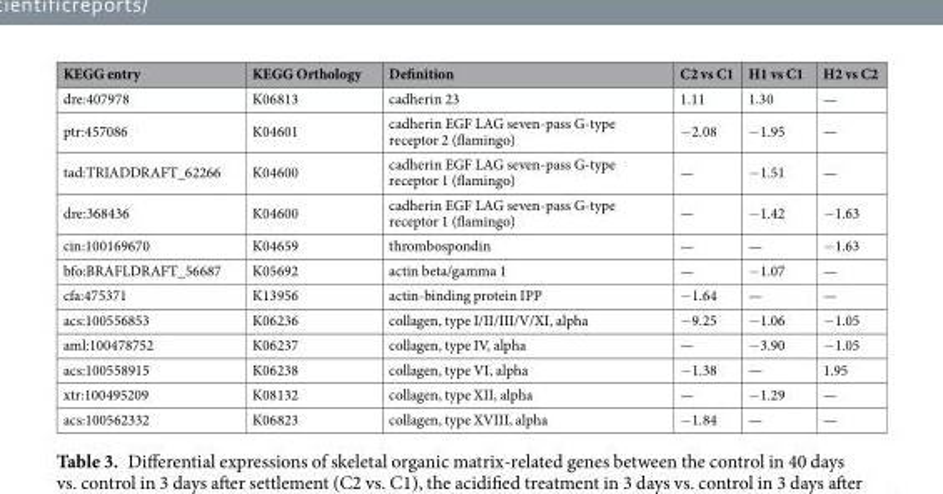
<table><thead><tr><td>KEGG entry</td><td>KEGG Orthology</td><td>Definition</td><td>C2 vs C1</td><td>H1 vs C1</td><td>H2 vs C2</td></tr></thead><tbody><tr><td>dre:407978</td><td>K06813</td><td>cadherin 23</td><td>1.11</td><td>1.30</td><td>—</td></tr><tr><td>ptr:457086</td><td>K04601</td><td>cadherin EGF LAG seven-pass G-type receptor 2 (flamingo)</td><td>−2.08</td><td>−1.95</td><td>—</td></tr><tr><td>tad:TRIADDRAFT_62266</td><td>K04600</td><td>cadherin EGF LAG seven-pass G-type receptor 1 (flamingo)</td><td>—</td><td>−1.51</td><td>—</td></tr><tr><td>dre:368436</td><td>K04600</td><td>cadherin EGF LAG seven-pass G-type receptor 1 (flamingo)</td><td>—</td><td>−1.42</td><td>−1.63</td></tr><tr><td>cin:100169670</td><td>K04659</td><td>thrombospondin</td><td>—</td><td>—</td><td>−1.63</td></tr><tr><td>bfo:BRAFLDRAFT_56687</td><td>K05692</td><td>actin beta/gamma 1</td><td>—</td><td>−1.07</td><td>—</td></tr><tr><td>cfa:475371</td><td>K13956</td><td>actin-binding protein IPP</td><td>−1.64</td><td>—</td><td>—</td></tr><tr><td>acs:100556853</td><td>K06236</td><td>collagen, type I/II/III/V/XI, alpha</td><td>−9.25</td><td>−1.06</td><td>−1.05</td></tr><tr><td>aml:100478752</td><td>K06237</td><td>collagen, type IV, alpha</td><td>—</td><td>−3.90</td><td>−1.05</td></tr><tr><td>acs:100558915</td><td>K06238</td><td>collagen, type VI, alpha</td><td>−1.38</td><td>—</td><td>1.95</td></tr><tr><td>xtr:100495209</td><td>K08132</td><td>collagen, type XII, alpha</td><td>—</td><td>−1.29</td><td>—</td></tr><tr><td>acs:100562332</td><td>K06823</td><td>collagen, type XVIII, alpha</td><td>−1.84</td><td>—</td><td>—</td></tr></tbody></table>